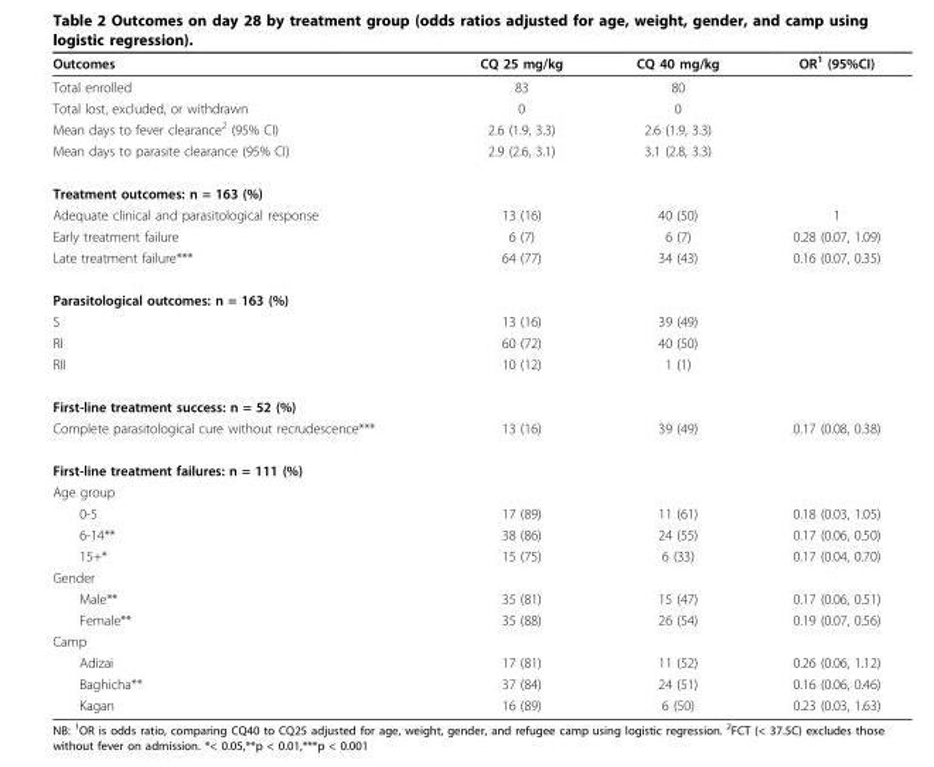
<table><thead><tr><td>Outcomes</td><td>CQ 25 mg/kg</td><td>CQ 40 mg/kg</td><td>OR<sup>1</sup> (95%CI)</td></tr></thead><tbody><tr><td>Total enrolled</td><td>83</td><td>80</td><td></td></tr><tr><td>Total lost, excluded, or withdrawn</td><td>0</td><td>0</td><td></td></tr><tr><td>Mean days to fever clearance<sup>2</sup> (95% CI)</td><td>2.6 (1.9, 3.3)</td><td>2.6 (1.9, 3.3)</td><td></td></tr><tr><td>Mean days to parasite clearance (95% CI)</td><td>2.9 (2.6, 3.1)</td><td>3.1 (2.8, 3.3)</td><td></td></tr><tr><td colspan="4">Treatment outcomes: n = 163 (%)</td></tr><tr><td>Adequate clinical and parasitological response</td><td>13 (16)</td><td>40 (50)</td><td>1</td></tr><tr><td>Early treatment failure</td><td>6 (7)</td><td>6 (7)</td><td>0.28 (0.07, 1.09)</td></tr><tr><td>Late treatment failure***</td><td>64 (77)</td><td>34 (43)</td><td>0.16 (0.07, 0.35)</td></tr><tr><td colspan="4">Parasitological outcomes: n = 163 (%)</td></tr><tr><td>S</td><td>13 (16)</td><td>39 (49)</td><td></td></tr><tr><td>RI</td><td>60 (72)</td><td>40 (50)</td><td></td></tr><tr><td>RII</td><td>10 (12)</td><td>1 (1)</td><td></td></tr><tr><td colspan="4">First-line treatment success: n = 52 (%)</td></tr><tr><td>Complete parasitological cure without recrudescence***</td><td>13 (16)</td><td>39 (49)</td><td>0.17 (0.08, 0.38)</td></tr><tr><td colspan="4">First-line treatment failures: n = 111 (%)</td></tr><tr><td colspan="4">Age group</td></tr><tr><td>0-5</td><td>17 (89)</td><td>11 (61)</td><td>0.18 (0.03, 1.05)</td></tr><tr><td>6-14**</td><td>38 (86)</td><td>24 (55)</td><td>0.17 (0.06, 0.50)</td></tr><tr><td>15+*</td><td>15 (75)</td><td>6 (33)</td><td>0.17 (0.04, 0.70)</td></tr><tr><td colspan="4">Gender</td></tr><tr><td>Male**</td><td>35 (81)</td><td>15 (47)</td><td>0.17 (0.06, 0.51)</td></tr><tr><td>Female**</td><td>35 (88)</td><td>26 (54)</td><td>0.19 (0.07, 0.56)</td></tr><tr><td colspan="4">Camp</td></tr><tr><td>Adizai</td><td>17 (81)</td><td>11 (52)</td><td>0.26 (0.06, 1.12)</td></tr><tr><td>Baghicha**</td><td>37 (84)</td><td>24 (51)</td><td>0.16 (0.06, 0.46)</td></tr><tr><td>Kagan</td><td>16 (89)</td><td>6 (50)</td><td>0.23 (0.03, 1.63)</td></tr></tbody></table>